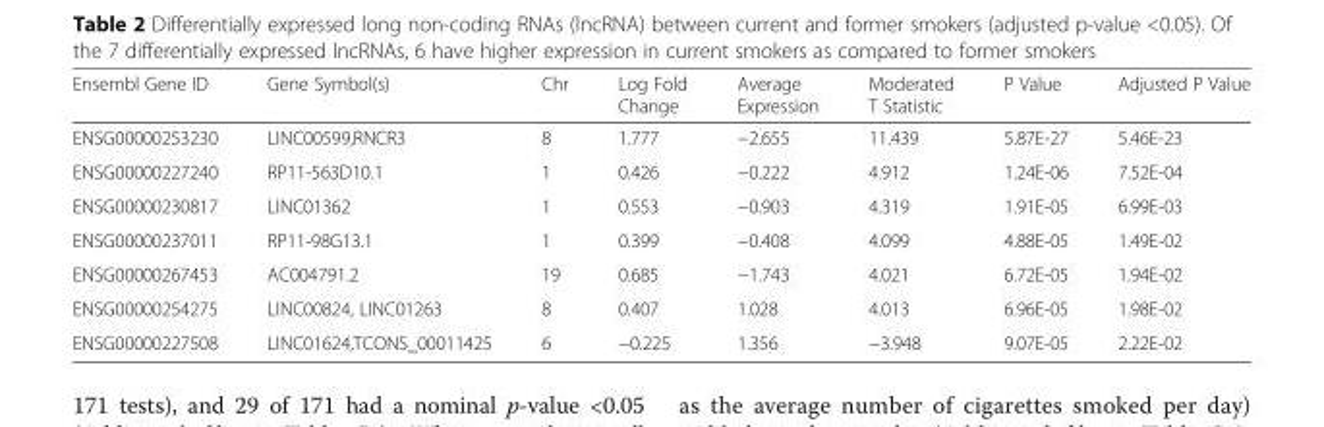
<table><thead><tr><td>Ensembl Gene ID</td><td>Gene Symbol(s)</td><td>Chr</td><td>Log Fold Change</td><td>Average Expression</td><td>Moderated T Statistic</td><td>P Value</td><td>Adjusted P Value</td></tr></thead><tbody><tr><td>ENSG00000253230</td><td>LINC00599,RNCR3</td><td>8</td><td>1.777</td><td>−2.655</td><td>11.439</td><td>5.87E-27</td><td>5.46E-23</td></tr><tr><td>ENSG00000227240</td><td>RP11-563D10.1</td><td>1</td><td>0.426</td><td>−0.222</td><td>4.912</td><td>1.24E-06</td><td>7.52E-04</td></tr><tr><td>ENSG00000230817</td><td>LINC01362</td><td>1</td><td>0.553</td><td>−0.903</td><td>4.319</td><td>1.91E-05</td><td>6.99E-03</td></tr><tr><td>ENSG00000237011</td><td>RP11-98G13.1</td><td>1</td><td>0.399</td><td>−0.408</td><td>4.099</td><td>4.88E-05</td><td>1.49E-02</td></tr><tr><td>ENSG00000267453</td><td>AC004791.2</td><td>19</td><td>0.685</td><td>−1.743</td><td>4.021</td><td>6.72E-05</td><td>1.94E-02</td></tr><tr><td>ENSG00000254275</td><td>LINC00824, LINC01263</td><td>8</td><td>0.407</td><td>1.028</td><td>4.013</td><td>6.96E-05</td><td>1.98E-02</td></tr><tr><td>ENSG00000227508</td><td>LINC01624,TCONS_00011425</td><td>6</td><td>−0.225</td><td>1.356</td><td>−3.948</td><td>9.07E-05</td><td>2.22E-02</td></tr></tbody></table>